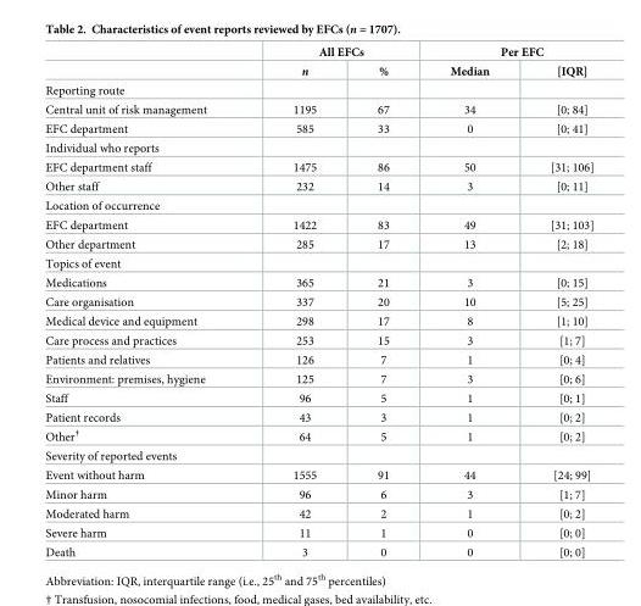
<table><thead><tr><td rowspan="2"></td><td colspan="2">All EFCs</td><td colspan="2">Per EFC</td></tr><tr><td>n</td><td>%</td><td>Median</td><td>[IQR]</td></tr></thead><tbody><tr><td colspan="5">Reporting route</td></tr><tr><td>Central unit of risk management</td><td>1195</td><td>67</td><td>34</td><td>[0; 84]</td></tr><tr><td>EFC department</td><td>585</td><td>33</td><td>0</td><td>[0; 41]</td></tr><tr><td colspan="5">Individual who reports</td></tr><tr><td>EFC department staff</td><td>1475</td><td>86</td><td>50</td><td>[31; 106]</td></tr><tr><td>Other staff</td><td>232</td><td>14</td><td>3</td><td>[0; 11]</td></tr><tr><td colspan="5">Location of occurrence</td></tr><tr><td>EFC department</td><td>1422</td><td>83</td><td>49</td><td>[31; 103]</td></tr><tr><td>Other department</td><td>285</td><td>17</td><td>13</td><td>[2; 18]</td></tr><tr><td colspan="5">Topics of event</td></tr><tr><td>Medications</td><td>365</td><td>21</td><td>3</td><td>[0; 15]</td></tr><tr><td>Care organisation</td><td>337</td><td>20</td><td>10</td><td>[5; 25]</td></tr><tr><td>Medical device and equipment</td><td>298</td><td>17</td><td>8</td><td>[1; 10]</td></tr><tr><td>Care process and practices</td><td>253</td><td>15</td><td>3</td><td>[1; 7]</td></tr><tr><td>Patients and relatives</td><td>126</td><td>7</td><td>1</td><td>[0; 4]</td></tr><tr><td>Environment: premises, hygiene</td><td>125</td><td>7</td><td>3</td><td>[0; 6]</td></tr><tr><td>Staff</td><td>96</td><td>5</td><td>1</td><td>[0; 1]</td></tr><tr><td>Patient records</td><td>43</td><td>3</td><td>1</td><td>[0; 2]</td></tr><tr><td>Other<sup>†</sup></td><td>64</td><td>5</td><td>1</td><td>[0; 2]</td></tr><tr><td colspan="5">Severity of reported events</td></tr><tr><td>Event without harm</td><td>1555</td><td>91</td><td>44</td><td>[24; 99]</td></tr><tr><td>Minor harm</td><td>96</td><td>6</td><td>3</td><td>[1; 7]</td></tr><tr><td>Moderated harm</td><td>42</td><td>2</td><td>1</td><td>[0; 2]</td></tr><tr><td>Severe harm</td><td>11</td><td>1</td><td>0</td><td>[0; 0]</td></tr><tr><td>Death</td><td>3</td><td>0</td><td>0</td><td>[0; 0]</td></tr></tbody></table>